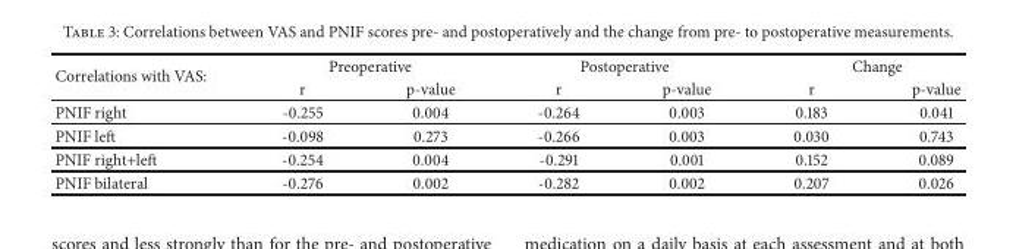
<table><thead><tr><td rowspan="2">Correlations with VAS:</td><td colspan="2">Preoperative</td><td colspan="2">Postoperative</td><td colspan="2">Change</td></tr><tr><td>r</td><td>p-value</td><td>r</td><td>p-value</td><td>r</td><td>p-value</td></tr></thead><tbody><tr><td>PNIF right</td><td>-0.255</td><td>0.004</td><td>-0.264</td><td>0.003</td><td>0.183</td><td>0.041</td></tr><tr><td>PNIF left</td><td>-0.098</td><td>0.273</td><td>-0.266</td><td>0.003</td><td>0.030</td><td>0.743</td></tr><tr><td>PNIF right+left</td><td>-0.254</td><td>0.004</td><td>-0.291</td><td>0.001</td><td>0.152</td><td>0.089</td></tr><tr><td>PNIF bilateral</td><td>-0.276</td><td>0.002</td><td>-0.282</td><td>0.002</td><td>0.207</td><td>0.026</td></tr></tbody></table>